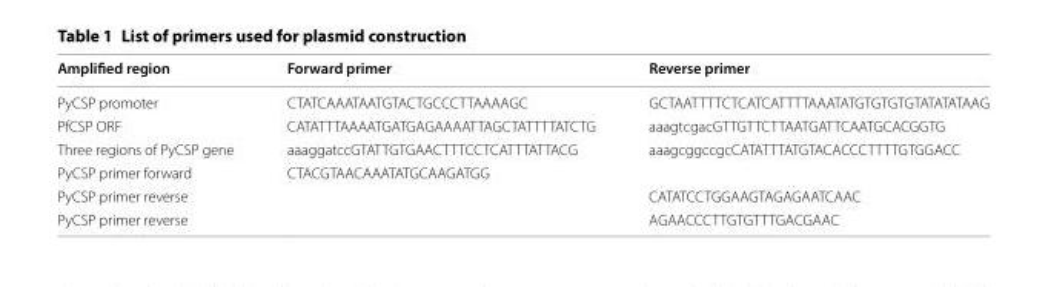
<table><thead><tr><td>Amplified region</td><td>Forward primer</td><td>Reverse primer</td></tr></thead><tbody><tr><td>PyCSP promoter</td><td>CTATCAAATAATGTACTGCCCTTAAAAGC</td><td>GCTAATTTTCTCATCATTTTAAATATGTGTGTGTATATATAAG</td></tr><tr><td>PfCSP ORF</td><td>CATATTTAAAATGATGAGAAAATTAGCTATTTTATCTG</td><td>aaagtcgacGTTGTTCTTAATGATTCAATGCACGGTG</td></tr><tr><td>Three regions of PyCSP gene</td><td>aaaggatccGTATTGTGAACTTTCCTCATTTATTACG</td><td>aaagcggccgcCATATTTATGTACACCCTTTTGTGGACC</td></tr><tr><td>PyCSP primer forward</td><td>CTACGTAACAAATATGCAAGATGG</td><td></td></tr><tr><td>PyCSP primer reverse</td><td></td><td>CATATCCTGGAAGTAGAGAATCAAC</td></tr><tr><td>PyCSP primer reverse</td><td></td><td>AGAACCCTTGTGTTTGACGAAC</td></tr></tbody></table>